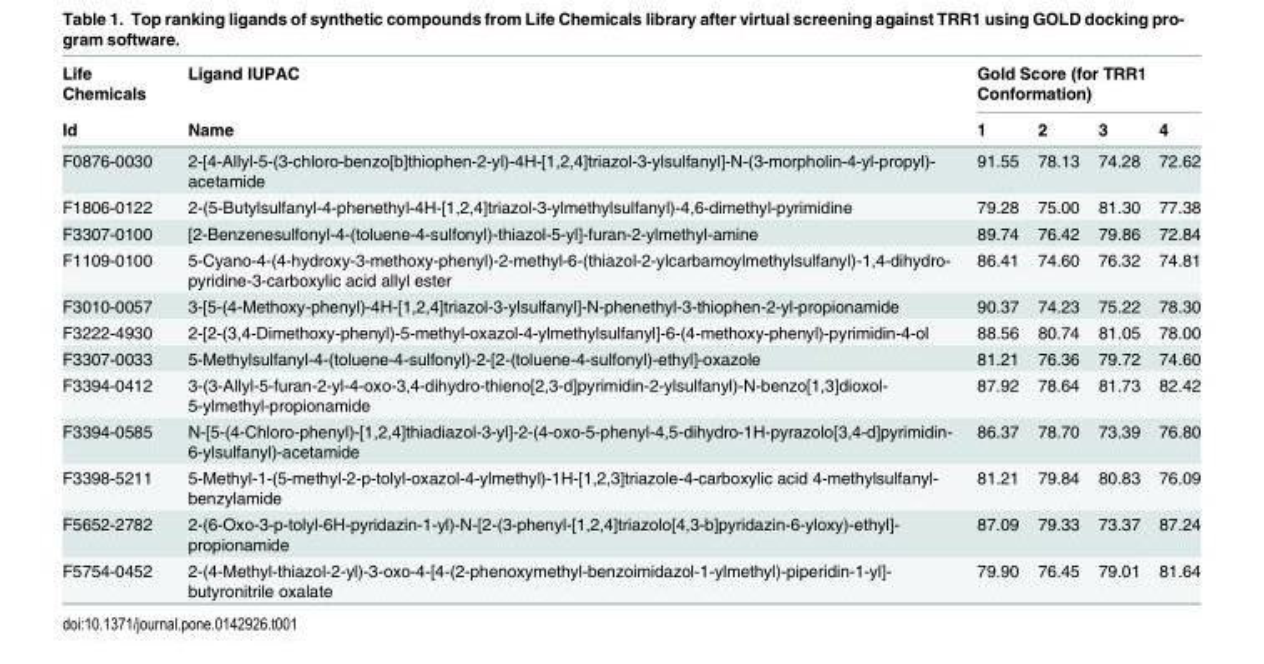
<table><thead><tr><td rowspan="2">Life Chemicals Id</td><td rowspan="2">Ligand IUPAC Name</td><td colspan="4">Gold Score (for TRR1 Conformation)</td></tr><tr><td>1</td><td>2</td><td>3</td><td>4</td></tr></thead><tbody><tr><td>F0876-0030</td><td>2-[4-Allyl-5-(3-chloro-benzo[b]thiophen-2-yl)-4H-[1,2,4]triazol-3-ylsulfanyl]-N-(3-morpholin-4-yl-propyl)- acetamide</td><td>91.55</td><td>78.13</td><td>74.28</td><td>72.62</td></tr><tr><td>F1806-0122</td><td>2-(5-Butylsulfanyl-4-phenethyl-4H-[1,2,4]triazol-3-ylmethylsulfanyl)-4,6-dimethyl-pyrimidine</td><td>79.28</td><td>75.00</td><td>81.30</td><td>77.38</td></tr><tr><td>F3307-0100</td><td>[2-Benzenesulfonyl-4-(toluene-4-sulfonyl)-thiazol-5-yl]-furan-2-ylmethyl-amine</td><td>89.74</td><td>76.42</td><td>79.86</td><td>72.84</td></tr><tr><td>F1109-0100</td><td>5-Cyano-4-(4-hydroxy-3-methoxy-phenyl)-2-methyl-6-(thiazol-2-ylcarbamoylmethylsulfanyl)-1,4-dihydro- pyridine-3-carboxylic acid allyl ester</td><td>86.41</td><td>74.60</td><td>76.32</td><td>74.81</td></tr><tr><td>F3010-0057</td><td>3-[5-(4-Methoxy-phenyl)-4H-[1,2,4]triazol-3-ylsulfanyl]-N-phenethyl-3-thiophen-2-yl-propionamide</td><td>90.37</td><td>74.23</td><td>75.22</td><td>78.30</td></tr><tr><td>F3222-4930</td><td>2-[2-(3,4-Dimethoxy-phenyl)-5-methyl-oxazol-4-ylmethylsulfanyl]-6-(4-methoxy-phenyl)-pyrimidin-4-ol</td><td>88.56</td><td>80.74</td><td>81.05</td><td>78.00</td></tr><tr><td>F3307-0033</td><td>5-Methylsulfanyl-4-(toluene-4-sulfonyl)-2-[2-(toluene-4-sulfonyl)-ethyl]-oxazole</td><td>81.21</td><td>76.36</td><td>79.72</td><td>74.60</td></tr><tr><td>F3394-0412</td><td>3-(3-Allyl-5-furan-2-yl-4-oxo-3,4-dihydro-thieno[2,3-d]pyrimidin-2-ylsulfanyl)-N-benzo[1,3]dioxol- 5-ylmethyl-propionamide</td><td>87.92</td><td>78.64</td><td>81.73</td><td>82.42</td></tr><tr><td>F3394-0585</td><td>N-[5-(4-Chloro-phenyl)-[1,2,4]thiadiazol-3-yl]-2-(4-oxo-5-phenyl-4,5-dihydro-1H-pyrazolo[3,4-d]pyrimidin- 6-ylsulfanyl)-acetamide</td><td>86.37</td><td>78.70</td><td>73.39</td><td>76.80</td></tr><tr><td>F3398-5211</td><td>5-Methyl-1-(5-methyl-2-p-tolyl-oxazol-4-ylmethyl)-1H-[1,2,3]triazole-4-carboxylic acid 4-methylsulfanyl- benzylamide</td><td>81.21</td><td>79.84</td><td>80.83</td><td>76.09</td></tr><tr><td>F5652-2782</td><td>2-(6-Oxo-3-p-tolyl-6H-pyridazin-1-yl)-N-[2-(3-phenyl-[1,2,4]triazolo[4,3-b]pyridazin-6-yloxy)-ethyl]- propionamide</td><td>87.09</td><td>79.33</td><td>73.37</td><td>87.24</td></tr><tr><td>F5754-0452</td><td>2-(4-Methyl-thiazol-2-yl)-3-oxo-4-[4-(2-phenoxymethyl-benzoimidazol-1-ylmethyl)-piperidin-1-yl]- butyronitrile oxalate</td><td>79.90</td><td>76.45</td><td>79.01</td><td>81.64</td></tr></tbody></table>